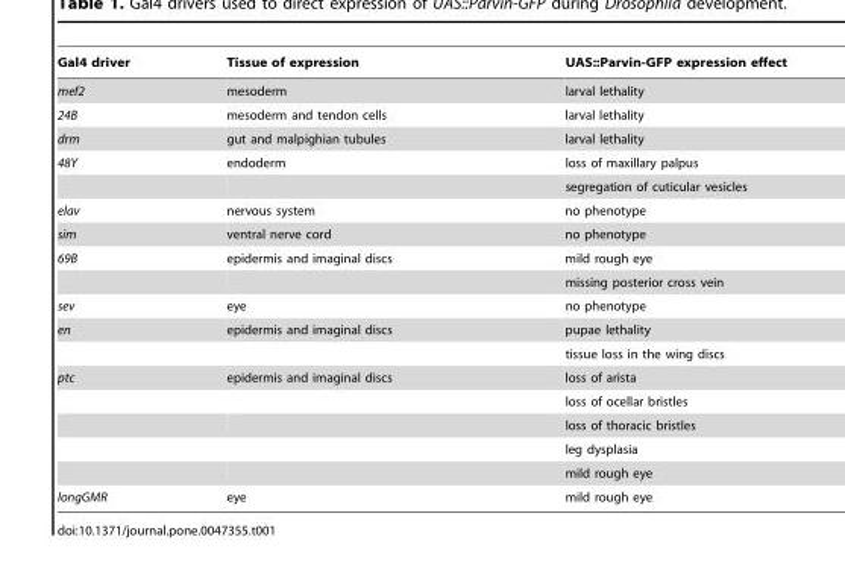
<table><thead><tr><td>Gal4 driver</td><td>Tissue of expression</td><td>UAS::Parvin-GFP expression effect</td></tr></thead><tbody><tr><td>mef2</td><td>mesoderm</td><td>larval lethality</td></tr><tr><td>24B</td><td>mesoderm and tendon cells</td><td>larval lethality</td></tr><tr><td>drm</td><td>gut and malpighian tubules</td><td>larval lethality</td></tr><tr><td rowspan="2">48Y</td><td>endoderm</td><td>loss of maxillary palpus</td></tr><tr><td></td><td>segregation of cuticular vesicles</td></tr><tr><td>elav</td><td>nervous system</td><td>no phenotype</td></tr><tr><td>sim</td><td>ventral nerve cord</td><td>no phenotype</td></tr><tr><td rowspan="2">69B</td><td>epidermis and imaginal discs</td><td>mild rough eye</td></tr><tr><td></td><td>missing posterior cross vein</td></tr><tr><td>sev</td><td>eye</td><td>no phenotype</td></tr><tr><td rowspan="2">en</td><td>epidermis and imaginal discs</td><td>pupae lethality</td></tr><tr><td></td><td>tissue loss in the wing discs</td></tr><tr><td rowspan="5">ptc</td><td>epidermis and imaginal discs</td><td>loss of arista</td></tr><tr><td></td><td>loss of ocellar bristles</td></tr><tr><td></td><td>loss of thoracic bristles</td></tr><tr><td></td><td>leg dysplasia</td></tr><tr><td></td><td>mild rough eye</td></tr><tr><td>longGMR</td><td>eye</td><td>mild rough eye</td></tr></tbody></table>